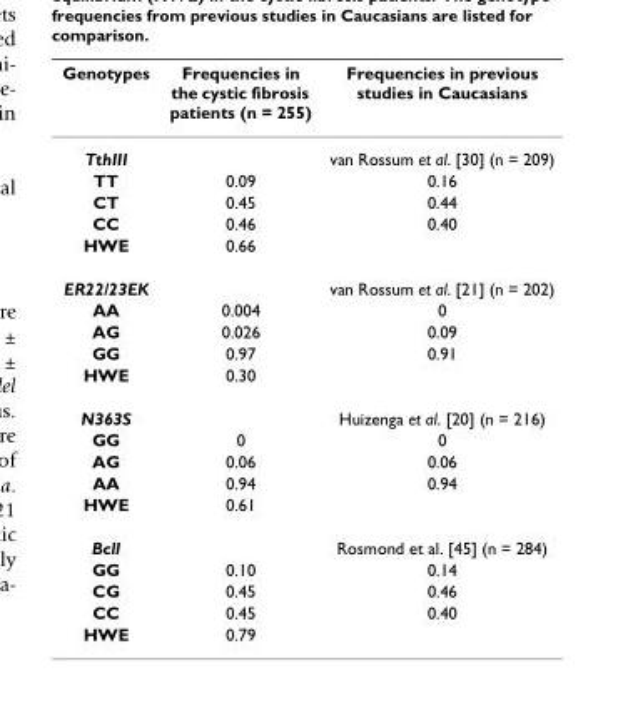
<table><thead><tr><td>Genotypes</td><td>Frequencies in the cystic fibrosis patients (n = 255)</td><td>Frequencies in previous studies in Caucasians</td></tr></thead><tbody><tr><td>TthIII</td><td></td><td>van Rossum et al. [30] (n = 209)</td></tr><tr><td>TT</td><td>0.09</td><td>0.16</td></tr><tr><td>CT</td><td>0.45</td><td>0.44</td></tr><tr><td>CC</td><td>0.46</td><td>0.40</td></tr><tr><td>HWE</td><td>0.66</td><td></td></tr><tr><td>ER22/23EK</td><td></td><td>van Rossum et al. [21] (n = 202)</td></tr><tr><td>AA</td><td>0.004</td><td>0</td></tr><tr><td>AG</td><td>0.026</td><td>0.09</td></tr><tr><td>GG</td><td>0.97</td><td>0.91</td></tr><tr><td>HWE</td><td>0.30</td><td></td></tr><tr><td>N363S</td><td></td><td>Huizenga et al. [20] (n = 216)</td></tr><tr><td>GG</td><td>0</td><td>0</td></tr><tr><td>AG</td><td>0.06</td><td>0.06</td></tr><tr><td>AA</td><td>0.94</td><td>0.94</td></tr><tr><td>HWE</td><td>0.61</td><td></td></tr><tr><td>BclI</td><td></td><td>Rosmond et al. [45] (n = 284)</td></tr><tr><td>GG</td><td>0.10</td><td>0.14</td></tr><tr><td>CG</td><td>0.45</td><td>0.46</td></tr><tr><td>CC</td><td>0.45</td><td>0.40</td></tr><tr><td>HWE</td><td>0.79</td><td></td></tr></tbody></table>